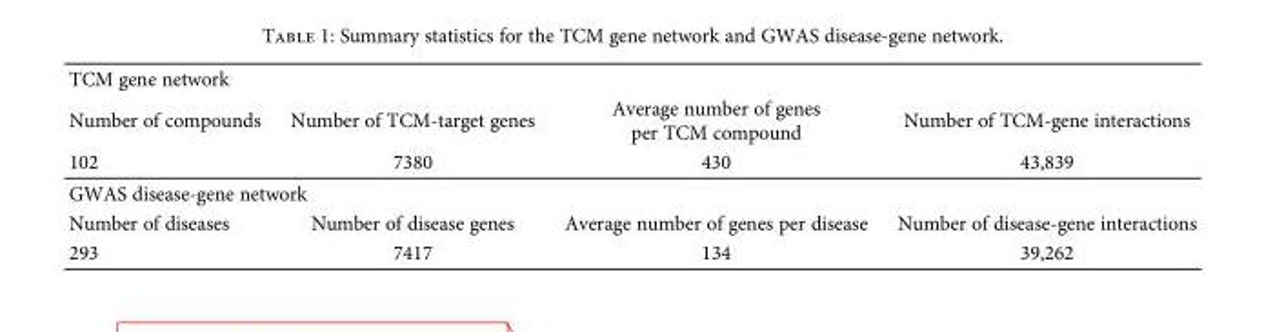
<table><tbody><tr><td colspan="4">TCM gene network</td></tr><tr><td>Number of compounds</td><td>Number of TCM-target genes</td><td>Average number of genes per TCM compound</td><td>Number of TCM-gene interactions</td></tr><tr><td>102</td><td>7380</td><td>430</td><td>43,839</td></tr><tr><td colspan="4">GWAS disease-gene network</td></tr><tr><td>Number of diseases</td><td>Number of disease genes</td><td>Average number of genes per disease</td><td>Number of disease-gene interactions</td></tr><tr><td>293</td><td>7417</td><td>134</td><td>39,262</td></tr></tbody></table>